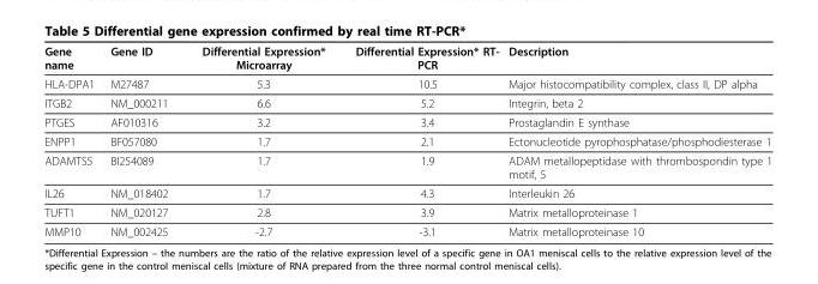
<table><thead><tr><td>Gene name</td><td>Gene ID</td><td>Differential Expression* Microarray</td><td>Differential Expression* RT- PCR</td><td>Description</td></tr></thead><tbody><tr><td>HLA-DPA1</td><td>M27487</td><td>5.3</td><td>10.5</td><td>Major histocompatibility complex, class II, DP alpha</td></tr><tr><td>ITGB2</td><td>NM_000211</td><td>6.6</td><td>5.2</td><td>Integrin, beta 2</td></tr><tr><td>PTGES</td><td>AF010316</td><td>3.2</td><td>3.4</td><td>Prostaglandin E synthase</td></tr><tr><td>ENPP1</td><td>BF057080</td><td>1.7</td><td>2.1</td><td>Ectonucleotide pyrophosphatase/phosphodiesterase 1</td></tr><tr><td>ADAMTS5</td><td>BI254089</td><td>1.7</td><td>1.9</td><td>ADAM metallopeptidase with thrombospondin type 1 motif, 5</td></tr><tr><td>IL26</td><td>NM_018402</td><td>1.7</td><td>4.3</td><td>Interleukin 26</td></tr><tr><td>TUFT1</td><td>NM_020127</td><td>2.8</td><td>3.9</td><td>Matrix metalloproteinase 1</td></tr><tr><td>MMP10</td><td>NM_002425</td><td>-2.7</td><td>-3.1</td><td>Matrix metalloproteinase 10</td></tr></tbody></table>